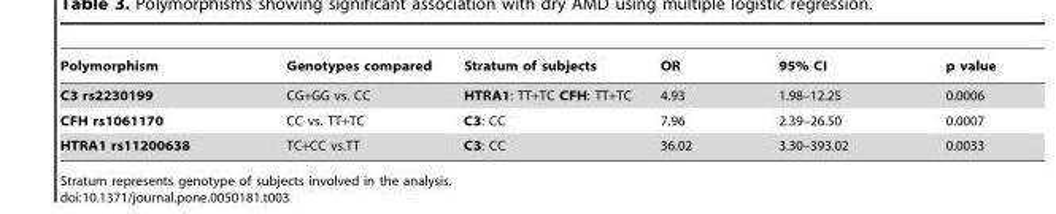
<table><thead><tr><td>Polymorphism</td><td>Genotypes compared</td><td>Stratum of subjects</td><td>OR</td><td>95% CI</td><td>p value</td></tr></thead><tbody><tr><td>C3 rs2230199</td><td>CG+GG vs. CC</td><td>HTRA1: TT+TC CFH: TT+TC</td><td>4.93</td><td>1.98–12.25</td><td>0.0006</td></tr><tr><td>CFH rs1061170</td><td>CC vs. TT+TC</td><td>C3: CC</td><td>7.96</td><td>2.39–26.50</td><td>0.0007</td></tr><tr><td>HTRA1 rs11200638</td><td>TC+CC vs.TT</td><td>C3: CC</td><td>36.02</td><td>3.30–393.02</td><td>0.0033</td></tr></tbody></table>